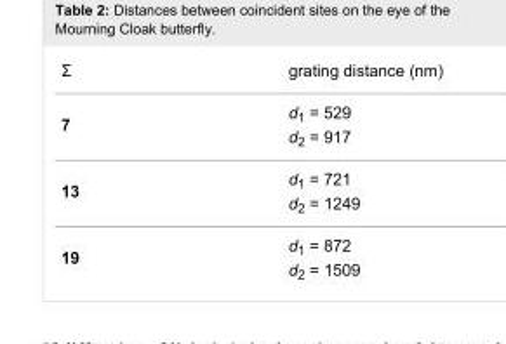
<table><tbody><tr><td>Σ</td><td>grating distance (nm)</td></tr><tr><td rowspan="2">7</td><td>d1 = 529</td></tr><tr><td>d2 = 917</td></tr><tr><td rowspan="2">13</td><td>d1 = 721</td></tr><tr><td>d2 = 1249</td></tr><tr><td rowspan="2">19</td><td>d1 = 872</td></tr><tr><td>d2 = 1509</td></tr></tbody></table>